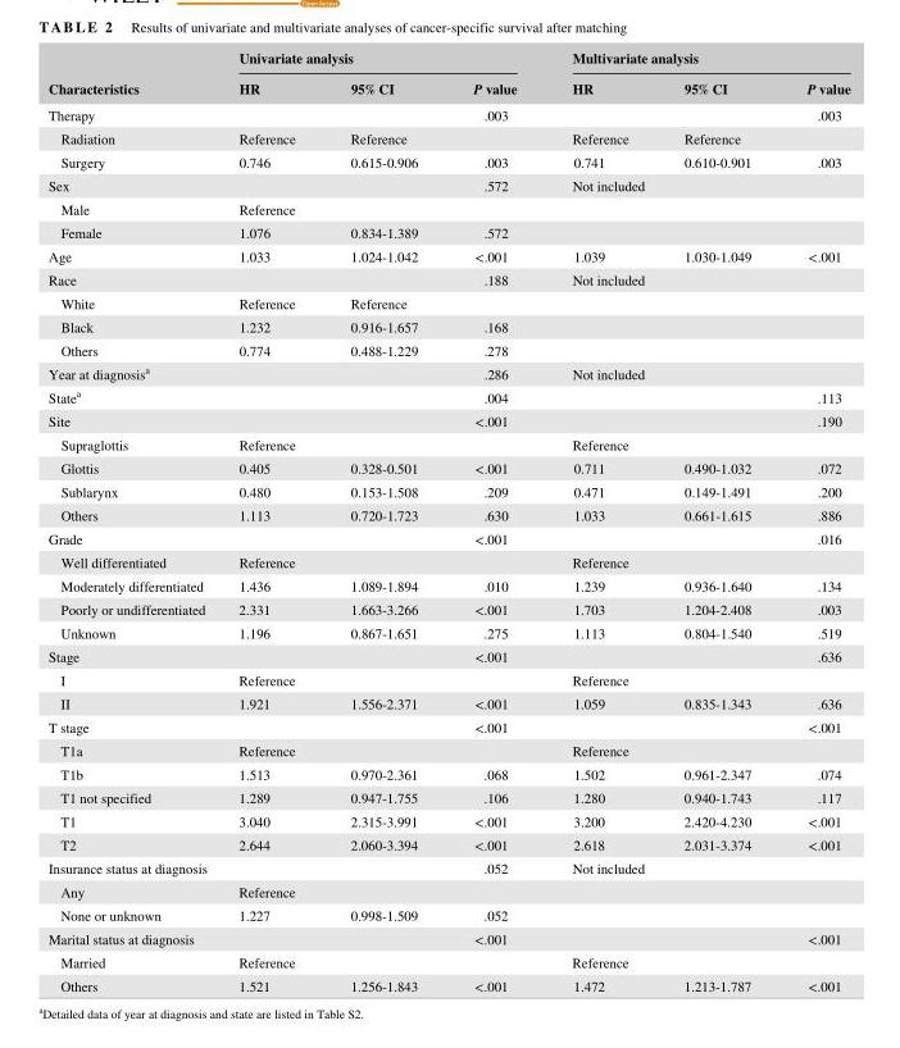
<table><thead><tr><td rowspan="2">Characteristics</td><td colspan="3">Univariate analysis</td><td colspan="3">Multivariate analysis</td></tr><tr><td>HR</td><td>95% CI</td><td>P value</td><td>HR</td><td>95% CI</td><td>P value</td></tr></thead><tbody><tr><td>Therapy</td><td></td><td></td><td>.003</td><td></td><td></td><td>.003</td></tr><tr><td>Radiation</td><td>Reference</td><td>Reference</td><td></td><td>Reference</td><td>Reference</td><td></td></tr><tr><td>Surgery</td><td>0.746</td><td>0.615- 0.906</td><td>.003</td><td>0.741</td><td>0.610- 0.901</td><td>.003</td></tr><tr><td>Sex</td><td></td><td></td><td>.572</td><td>Not included</td><td></td><td></td></tr><tr><td>Male</td><td>Reference</td><td></td><td></td><td></td><td></td><td></td></tr><tr><td>Female</td><td>1.076</td><td>0.834- 1.389</td><td>.572</td><td></td><td></td><td></td></tr><tr><td>Age</td><td>1.033</td><td>1.024- 1.042</td><td>&lt;.001</td><td>1.039</td><td>1.030- 1.049</td><td>&lt;.001</td></tr><tr><td>Race</td><td></td><td></td><td>.188</td><td>Not included</td><td></td><td></td></tr><tr><td>White</td><td>Reference</td><td>Reference</td><td></td><td></td><td></td><td></td></tr><tr><td>Black</td><td>1.232</td><td>0.916- 1.657</td><td>.168</td><td></td><td></td><td></td></tr><tr><td>Others</td><td>0.774</td><td>0.488- 1.229</td><td>.278</td><td></td><td></td><td></td></tr><tr><td>Year at diagnosis<sup>a</sup></td><td></td><td></td><td>.286</td><td>Not included</td><td></td><td></td></tr><tr><td>State<sup>a</sup></td><td></td><td></td><td>.004</td><td></td><td></td><td>.113</td></tr><tr><td>Site</td><td></td><td></td><td>&lt;.001</td><td></td><td></td><td>.190</td></tr><tr><td>Supraglottis</td><td>Reference</td><td></td><td></td><td>Reference</td><td></td><td></td></tr><tr><td>Glottis</td><td>0.405</td><td>0.328- 0.501</td><td>&lt;.001</td><td>0.711</td><td>0.490- 1.032</td><td>.072</td></tr><tr><td>Sublarynx</td><td>0.480</td><td>0.153- 1.508</td><td>.209</td><td>0.471</td><td>0.149- 1.491</td><td>.200</td></tr><tr><td>Others</td><td>1.113</td><td>0.720- 1.723</td><td>.630</td><td>1.033</td><td>0.661- 1.615</td><td>.886</td></tr><tr><td>Grade</td><td></td><td></td><td>&lt;.001</td><td></td><td></td><td>.016</td></tr><tr><td>Well differentiated</td><td>Reference</td><td></td><td></td><td>Reference</td><td></td><td></td></tr><tr><td>Moderately differentiated</td><td>1.436</td><td>1.089- 1.894</td><td>.010</td><td>1.239</td><td>0.936- 1.640</td><td>.134</td></tr><tr><td>Poorly or undifferentiated</td><td>2.331</td><td>1.663- 3.266</td><td>&lt;.001</td><td>1.703</td><td>1.204- 2.408</td><td>.003</td></tr><tr><td>Unknown</td><td>1.196</td><td>0.867- 1.651</td><td>.275</td><td>1.113</td><td>0.804- 1.540</td><td>.519</td></tr><tr><td>Stage</td><td></td><td></td><td>&lt;.001</td><td></td><td></td><td>.636</td></tr><tr><td>I</td><td>Reference</td><td></td><td></td><td>Reference</td><td></td><td></td></tr><tr><td>II</td><td>1.921</td><td>1.556- 2.371</td><td>&lt;.001</td><td>1.059</td><td>0.835- 1.343</td><td>.636</td></tr><tr><td>T stage</td><td></td><td></td><td>&lt;.001</td><td></td><td></td><td>&lt;.001</td></tr><tr><td>T1a</td><td>Reference</td><td></td><td></td><td>Reference</td><td></td><td></td></tr><tr><td>T1b</td><td>1.513</td><td>0.970- 2.361</td><td>.068</td><td>1.502</td><td>0.961- 2.347</td><td>.074</td></tr><tr><td>T1 not specified</td><td>1.289</td><td>0.947- 1.755</td><td>.106</td><td>1.280</td><td>0.940- 1.743</td><td>.117</td></tr><tr><td>T1</td><td>3.040</td><td>2.315- 3.991</td><td>&lt;.001</td><td>3.200</td><td>2.420- 4.230</td><td>&lt;.001</td></tr><tr><td>T2</td><td>2.644</td><td>2.060- 3.394</td><td>&lt;.001</td><td>2.618</td><td>2.031- 3.374</td><td>&lt;.001</td></tr><tr><td>Insurance status at diagnosis</td><td></td><td></td><td>.052</td><td>Not included</td><td></td><td></td></tr><tr><td>Any</td><td>Reference</td><td></td><td></td><td></td><td></td><td></td></tr><tr><td>None or unknown</td><td>1.227</td><td>0.998- 1.509</td><td>.052</td><td></td><td></td><td></td></tr><tr><td>Marital status at diagnosis</td><td></td><td></td><td>&lt;.001</td><td></td><td></td><td>&lt;.001</td></tr><tr><td>Married</td><td>Reference</td><td></td><td></td><td>Reference</td><td></td><td></td></tr><tr><td>Others</td><td>1.521</td><td>1.256- 1.843</td><td>&lt;.001</td><td>1.472</td><td>1.213- 1.787</td><td>&lt;.001</td></tr></tbody></table>